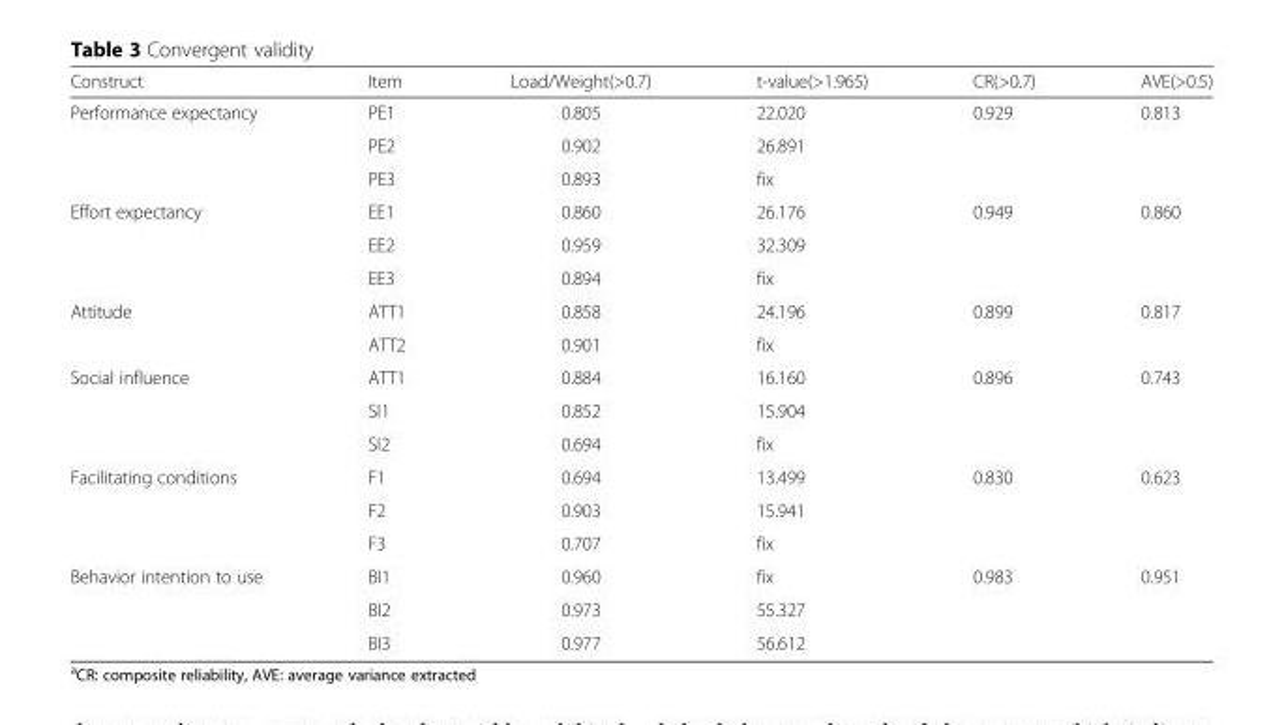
<table><thead><tr><td>Construct</td><td>Item</td><td>Load/Weight(&gt;0.7)</td><td>t-value(&gt;1.965)</td><td>CR(&gt;0.7)</td><td>AVE(&gt;0.5)</td></tr></thead><tbody><tr><td rowspan="3">Performance expectancy</td><td>PE1</td><td>0.805</td><td>22.020</td><td rowspan="3">0.929</td><td rowspan="3">0.813</td></tr><tr><td>PE2</td><td>0.902</td><td>26.891</td></tr><tr><td>PE3</td><td>0.893</td><td>fix</td></tr><tr><td rowspan="3">Effort expectancy</td><td>EE1</td><td>0.860</td><td>26.176</td><td rowspan="3">0.949</td><td rowspan="3">0.860</td></tr><tr><td>EE2</td><td>0.959</td><td>32.309</td></tr><tr><td>EE3</td><td>0.894</td><td>fix</td></tr><tr><td rowspan="2">Attitude</td><td>ATT1</td><td>0.858</td><td>24.196</td><td rowspan="2">0.899</td><td rowspan="2">0.817</td></tr><tr><td>ATT2</td><td>0.901</td><td>fix</td></tr><tr><td rowspan="3">Social influence</td><td>ATT1</td><td>0.884</td><td>16.160</td><td rowspan="3">0.896</td><td rowspan="3">0.743</td></tr><tr><td>SI1</td><td>0.852</td><td>15.904</td></tr><tr><td>SI2</td><td>0.694</td><td>fix</td></tr><tr><td rowspan="3">Facilitating conditions</td><td>F1</td><td>0.694</td><td>13.499</td><td rowspan="3">0.830</td><td rowspan="3">0.623</td></tr><tr><td>F2</td><td>0.903</td><td>15.941</td></tr><tr><td>F3</td><td>0.707</td><td>fix</td></tr><tr><td rowspan="3">Behavior intention to use</td><td>BI1</td><td>0.960</td><td>fix</td><td rowspan="3">0.983</td><td rowspan="3">0.951</td></tr><tr><td>BI2</td><td>0.973</td><td>55.327</td></tr><tr><td>BI3</td><td>0.977</td><td>56.612</td></tr></tbody></table>